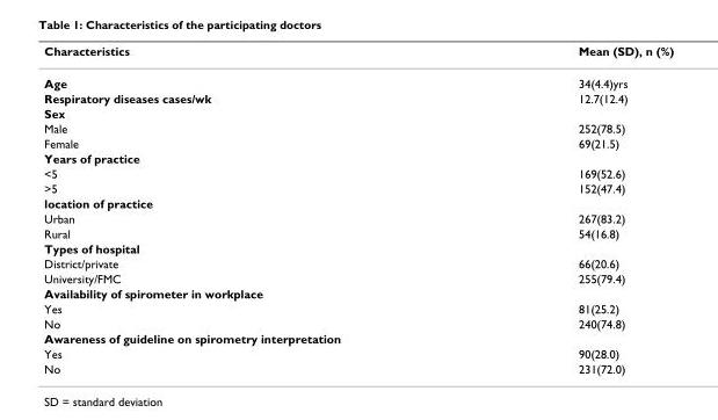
<table><thead><tr><td>Characteristics</td><td>Mean (SD), n (%)</td></tr></thead><tbody><tr><td>Age</td><td>34(4.4)yrs</td></tr><tr><td>Respiratory diseases cases/wk</td><td>12.7(12.4)</td></tr><tr><td colspan="2">Sex</td></tr><tr><td>Male</td><td>252(78.5)</td></tr><tr><td>Female</td><td>69(21.5)</td></tr><tr><td colspan="2">Years of practice</td></tr><tr><td>&lt;5</td><td>169(52.6)</td></tr><tr><td>&gt;5</td><td>152(47.4)</td></tr><tr><td colspan="2">location of practice</td></tr><tr><td>Urban</td><td>267(83.2)</td></tr><tr><td>Rural</td><td>54(16.8)</td></tr><tr><td colspan="2">Types of hospital</td></tr><tr><td>District/private</td><td>66(20.6)</td></tr><tr><td>University/FMC</td><td>255(79.4)</td></tr><tr><td colspan="2">Availability of spirometer in workplace</td></tr><tr><td>Yes</td><td>81(25.2)</td></tr><tr><td>No</td><td>240(74.8)</td></tr><tr><td colspan="2">Awareness of guideline on spirometry interpretation</td></tr><tr><td>Yes</td><td>90(28.0)</td></tr><tr><td>No</td><td>231(72.0)</td></tr></tbody></table>